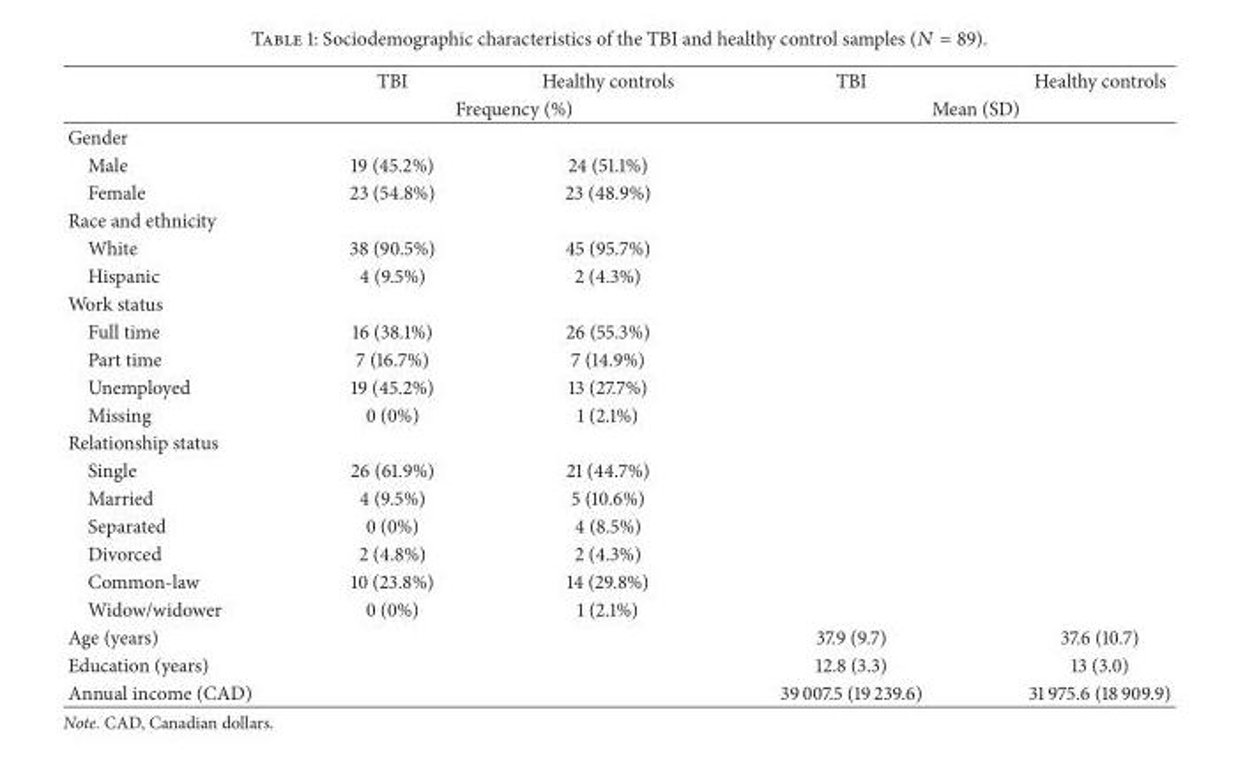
<table><thead><tr><td rowspan="2"></td><td>TBI</td><td>Healthy controls</td><td>TBI</td><td>Healthy controls</td></tr><tr><td colspan="2">Frequency (%)</td><td colspan="2">Mean (SD)</td></tr></thead><tbody><tr><td colspan="5">Gender</td></tr><tr><td>Male</td><td>19 (45.2%)</td><td>24 (51.1%)</td><td></td><td></td></tr><tr><td>Female</td><td>23 (54.8%)</td><td>23 (48.9%)</td><td></td><td></td></tr><tr><td colspan="5">Race and ethnicity</td></tr><tr><td>White</td><td>38 (90.5%)</td><td>45 (95.7%)</td><td></td><td></td></tr><tr><td>Hispanic</td><td>4 (9.5%)</td><td>2 (4.3%)</td><td></td><td></td></tr><tr><td colspan="5">Work status</td></tr><tr><td>Full time</td><td>16 (38.1%)</td><td>26 (55.3%)</td><td></td><td></td></tr><tr><td>Part time</td><td>7 (16.7%)</td><td>7 (14.9%)</td><td></td><td></td></tr><tr><td>Unemployed</td><td>19 (45.2%)</td><td>13 (27.7%)</td><td></td><td></td></tr><tr><td>Missing</td><td>0 (0%)</td><td>1 (2.1%)</td><td></td><td></td></tr><tr><td colspan="5">Relationship status</td></tr><tr><td>Single</td><td>26 (61.9%)</td><td>21 (44.7%)</td><td></td><td></td></tr><tr><td>Married</td><td>4 (9.5%)</td><td>5 (10.6%)</td><td></td><td></td></tr><tr><td>Separated</td><td>0 (0%)</td><td>4 (8.5%)</td><td></td><td></td></tr><tr><td>Divorced</td><td>2 (4.8%)</td><td>2 (4.3%)</td><td></td><td></td></tr><tr><td>Common-law</td><td>10 (23.8%)</td><td>14 (29.8%)</td><td></td><td></td></tr><tr><td>Widow/widower</td><td>0 (0%)</td><td>1 (2.1%)</td><td></td><td></td></tr><tr><td>Age (years)</td><td></td><td></td><td>37.9 (9.7)</td><td>37.6 (10.7)</td></tr><tr><td>Education (years)</td><td></td><td></td><td>12.8 (3.3)</td><td>13 (3.0)</td></tr><tr><td>Annual income (CAD)</td><td></td><td></td><td>39 007.5 (19 239.6)</td><td>31 975.6 (18 909.9)</td></tr></tbody></table>